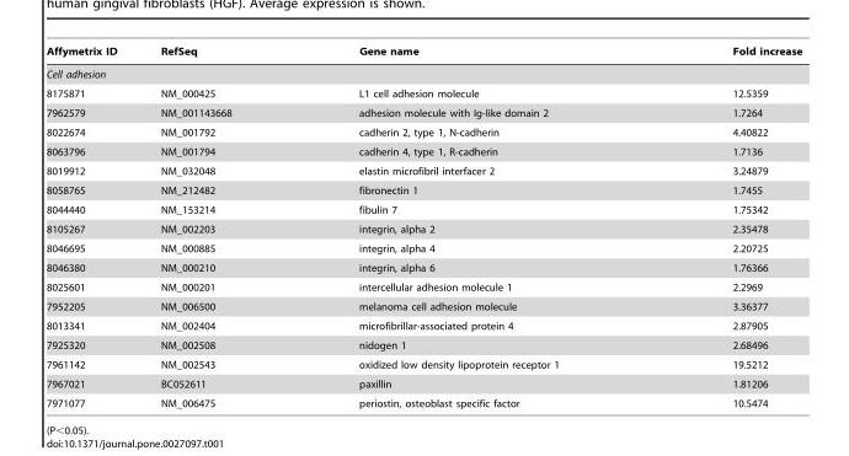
<table><thead><tr><td>Affymetrix ID</td><td>RefSeq</td><td>Gene name</td><td>Fold increase</td></tr></thead><tbody><tr><td colspan="4">Cell adhesion</td></tr><tr><td>8175871</td><td>NM_000425</td><td>L1 cell adhesion molecule</td><td>12.5359</td></tr><tr><td>7962579</td><td>NM_001143668</td><td>adhesion molecule with Ig-like domain 2</td><td>1.7264</td></tr><tr><td>8022674</td><td>NM_001792</td><td>cadherin 2, type 1, N-cadherin</td><td>4.40822</td></tr><tr><td>8063796</td><td>NM_001794</td><td>cadherin 4, type 1, R-cadherin</td><td>1.7136</td></tr><tr><td>8019912</td><td>NM_032048</td><td>elastin microfibril interfacer 2</td><td>3.24879</td></tr><tr><td>8058765</td><td>NM_212482</td><td>fibronectin 1</td><td>1.7455</td></tr><tr><td>8044440</td><td>NM_153214</td><td>fibulin 7</td><td>1.75342</td></tr><tr><td>8105267</td><td>NM_002203</td><td>integrin, alpha 2</td><td>2.35478</td></tr><tr><td>8046695</td><td>NM_000885</td><td>integrin, alpha 4</td><td>2.20725</td></tr><tr><td>8046380</td><td>NM_000210</td><td>integrin, alpha 6</td><td>1.76366</td></tr><tr><td>8025601</td><td>NM_000201</td><td>intercellular adhesion molecule 1</td><td>2.2969</td></tr><tr><td>7952205</td><td>NM_006500</td><td>melanoma cell adhesion molecule</td><td>3.36377</td></tr><tr><td>8013341</td><td>NM_002404</td><td>microfibrillar-associated protein 4</td><td>2.87905</td></tr><tr><td>7925320</td><td>NM_002508</td><td>nidogen 1</td><td>2.68496</td></tr><tr><td>7961142</td><td>NM_002543</td><td>oxidized low density lipoprotein receptor 1</td><td>19.5212</td></tr><tr><td>7967021</td><td>BC052611</td><td>paxillin</td><td>1.81206</td></tr><tr><td>7971077</td><td>NM_006475</td><td>periostin, osteoblast specific factor</td><td>10.5474</td></tr></tbody></table>